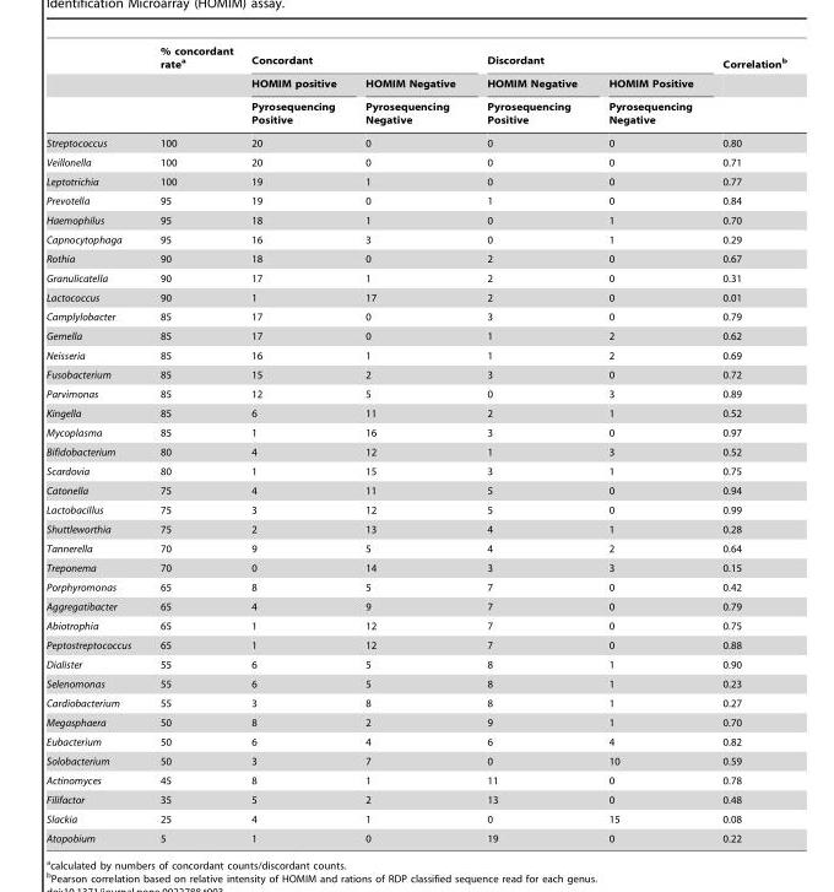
<table><thead><tr><td rowspan="3"></td><td rowspan="3">% concordant rate<sup>a</sup></td><td colspan="2">Concordant</td><td colspan="2">Discordant</td><td rowspan="3">Correlation<sup>b</sup></td></tr><tr><td rowspan="2">HOMIM positive Pyrosequencing Positive</td><td rowspan="2">HOMIM Negative Pyrosequencing Negative</td><td rowspan="2">HOMIM Negative Pyrosequencing Positive</td><td rowspan="2">HOMIM Positive Pyrosequencing Negative</td></tr><tr></tr></thead><tbody><tr><td>Streptococcus</td><td>100</td><td>20</td><td>0</td><td>0</td><td>0</td><td>0.80</td></tr><tr><td>Veillonella</td><td>100</td><td>20</td><td>0</td><td>0</td><td>0</td><td>0.71</td></tr><tr><td>Leptotrichia</td><td>100</td><td>19</td><td>1</td><td>0</td><td>0</td><td>0.77</td></tr><tr><td>Prevotella</td><td>95</td><td>19</td><td>0</td><td>1</td><td>0</td><td>0.84</td></tr><tr><td>Haemophilus</td><td>95</td><td>18</td><td>1</td><td>0</td><td>1</td><td>0.70</td></tr><tr><td>Capnocytophaga</td><td>95</td><td>16</td><td>3</td><td>0</td><td>1</td><td>0.29</td></tr><tr><td>Rothia</td><td>90</td><td>18</td><td>0</td><td>2</td><td>0</td><td>0.67</td></tr><tr><td>Granulicatella</td><td>90</td><td>17</td><td>1</td><td>2</td><td>0</td><td>0.31</td></tr><tr><td>Lactococcus</td><td>90</td><td>1</td><td>17</td><td>2</td><td>0</td><td>0.01</td></tr><tr><td>Camplylobacter</td><td>85</td><td>17</td><td>0</td><td>3</td><td>0</td><td>0.79</td></tr><tr><td>Gemella</td><td>85</td><td>17</td><td>0</td><td>1</td><td>2</td><td>0.62</td></tr><tr><td>Neisseria</td><td>85</td><td>16</td><td>1</td><td>1</td><td>2</td><td>0.69</td></tr><tr><td>Fusobacterium</td><td>85</td><td>15</td><td>2</td><td>3</td><td>0</td><td>0.72</td></tr><tr><td>Parvimonas</td><td>85</td><td>12</td><td>5</td><td>0</td><td>3</td><td>0.89</td></tr><tr><td>Kingella</td><td>85</td><td>6</td><td>11</td><td>2</td><td>1</td><td>0.52</td></tr><tr><td>Mycoplasma</td><td>85</td><td>1</td><td>16</td><td>3</td><td>0</td><td>0.97</td></tr><tr><td>Bifidobacterium</td><td>80</td><td>4</td><td>12</td><td>1</td><td>3</td><td>0.52</td></tr><tr><td>Scardovia</td><td>80</td><td>1</td><td>15</td><td>3</td><td>1</td><td>0.75</td></tr><tr><td>Catonella</td><td>75</td><td>4</td><td>11</td><td>5</td><td>0</td><td>0.94</td></tr><tr><td>Lactobacillus</td><td>75</td><td>3</td><td>12</td><td>5</td><td>0</td><td>0.99</td></tr><tr><td>Shuttleworthia</td><td>75</td><td>2</td><td>13</td><td>4</td><td>1</td><td>0.28</td></tr><tr><td>Tannerella</td><td>70</td><td>9</td><td>5</td><td>4</td><td>2</td><td>0.64</td></tr><tr><td>Treponema</td><td>70</td><td>0</td><td>14</td><td>3</td><td>3</td><td>0.15</td></tr><tr><td>Porphyromonas</td><td>65</td><td>8</td><td>5</td><td>7</td><td>0</td><td>0.42</td></tr><tr><td>Aggregatibacter</td><td>65</td><td>4</td><td>9</td><td>7</td><td>0</td><td>0.79</td></tr><tr><td>Abiotrophia</td><td>65</td><td>1</td><td>12</td><td>7</td><td>0</td><td>0.75</td></tr><tr><td>Peptostreptococcus</td><td>65</td><td>1</td><td>12</td><td>7</td><td>0</td><td>0.88</td></tr><tr><td>Dialister</td><td>55</td><td>6</td><td>5</td><td>8</td><td>1</td><td>0.90</td></tr><tr><td>Selenomonas</td><td>55</td><td>6</td><td>5</td><td>8</td><td>1</td><td>0.23</td></tr><tr><td>Cardiobacterium</td><td>55</td><td>3</td><td>8</td><td>8</td><td>1</td><td>0.27</td></tr><tr><td>Megasphaera</td><td>50</td><td>8</td><td>2</td><td>9</td><td>1</td><td>0.70</td></tr><tr><td>Eubacterium</td><td>50</td><td>6</td><td>4</td><td>6</td><td>4</td><td>0.82</td></tr><tr><td>Solobacterium</td><td>50</td><td>3</td><td>7</td><td>0</td><td>10</td><td>0.59</td></tr><tr><td>Actinomyces</td><td>45</td><td>8</td><td>1</td><td>11</td><td>0</td><td>0.78</td></tr><tr><td>Filifactor</td><td>35</td><td>5</td><td>2</td><td>13</td><td>0</td><td>0.48</td></tr><tr><td>Slackia</td><td>25</td><td>4</td><td>1</td><td>0</td><td>15</td><td>0.08</td></tr><tr><td>Atopobium</td><td>5</td><td>1</td><td>0</td><td>19</td><td>0</td><td>0.22</td></tr></tbody></table>